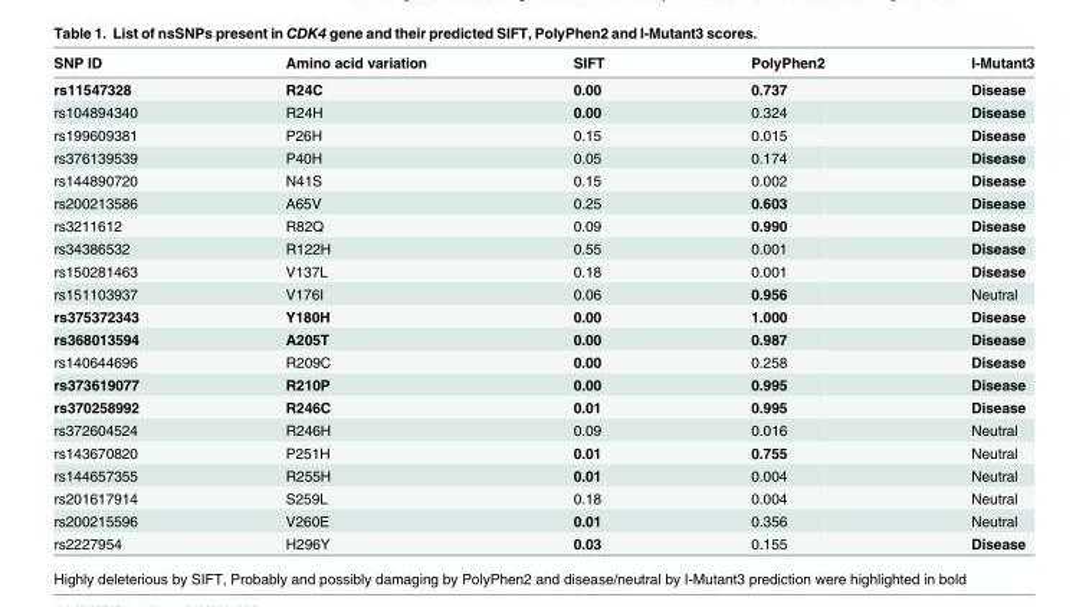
<table><thead><tr><td>SNP ID</td><td>Amino acid variation</td><td>SIFT</td><td>PolyPhen2</td><td>I-Mutant3</td></tr></thead><tbody><tr><td>rs11547328</td><td>R24C</td><td>0.00</td><td>0.737</td><td>Disease</td></tr><tr><td>rs104894340</td><td>R24H</td><td>0.00</td><td>0.324</td><td>Disease</td></tr><tr><td>rs199609381</td><td>P26H</td><td>0.15</td><td>0.015</td><td>Disease</td></tr><tr><td>rs376139539</td><td>P40H</td><td>0.05</td><td>0.174</td><td>Disease</td></tr><tr><td>rs144890720</td><td>N41S</td><td>0.15</td><td>0.002</td><td>Disease</td></tr><tr><td>rs200213586</td><td>A65V</td><td>0.25</td><td>0.603</td><td>Disease</td></tr><tr><td>rs3211612</td><td>R82Q</td><td>0.09</td><td>0.990</td><td>Disease</td></tr><tr><td>rs34386532</td><td>R122H</td><td>0.55</td><td>0.001</td><td>Disease</td></tr><tr><td>rs150281463</td><td>V137L</td><td>0.18</td><td>0.001</td><td>Disease</td></tr><tr><td>rs151103937</td><td>V176I</td><td>0.06</td><td>0.956</td><td>Neutral</td></tr><tr><td>rs375372343</td><td>Y180H</td><td>0.00</td><td>1.000</td><td>Disease</td></tr><tr><td>rs368013594</td><td>A205T</td><td>0.00</td><td>0.987</td><td>Disease</td></tr><tr><td>rs140644696</td><td>R209C</td><td>0.00</td><td>0.258</td><td>Disease</td></tr><tr><td>rs373619077</td><td>R210P</td><td>0.00</td><td>0.995</td><td>Disease</td></tr><tr><td>rs370258992</td><td>R246C</td><td>0.01</td><td>0.995</td><td>Disease</td></tr><tr><td>rs372604524</td><td>R246H</td><td>0.09</td><td>0.016</td><td>Neutral</td></tr><tr><td>rs143670820</td><td>P251H</td><td>0.01</td><td>0.755</td><td>Neutral</td></tr><tr><td>rs144657355</td><td>R255H</td><td>0.01</td><td>0.004</td><td>Neutral</td></tr><tr><td>rs201617914</td><td>S259L</td><td>0.18</td><td>0.004</td><td>Neutral</td></tr><tr><td>rs200215596</td><td>V260E</td><td>0.01</td><td>0.356</td><td>Neutral</td></tr><tr><td>rs2227954</td><td>H296Y</td><td>0.03</td><td>0.155</td><td>Disease</td></tr></tbody></table>